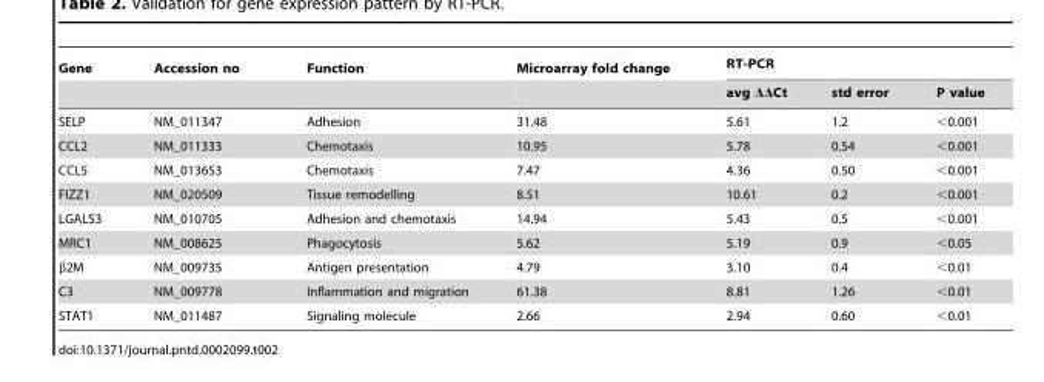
<table><thead><tr><td rowspan="2">Gene</td><td rowspan="2">Accession no</td><td rowspan="2">Function</td><td rowspan="2">Microarray fold change</td><td colspan="3">RT-PCR</td></tr><tr><td>avg ΔΔCt</td><td>std error</td><td>P value</td></tr></thead><tbody><tr><td>SELP</td><td>NM_011347</td><td>Adhesion</td><td>31.48</td><td>5.61</td><td>1.2</td><td>&lt;0.001</td></tr><tr><td>CCL2</td><td>NM_011333</td><td>Chemotaxis</td><td>10.95</td><td>5.78</td><td>0.54</td><td>&lt;0.001</td></tr><tr><td>CCL5</td><td>NM_013653</td><td>Chemotaxis</td><td>7.47</td><td>4.36</td><td>0.50</td><td>&lt;0.001</td></tr><tr><td>FIZZ1</td><td>NM_020509</td><td>Tissue remodelling</td><td>8.51</td><td>10.61</td><td>0.2</td><td>&lt;0.001</td></tr><tr><td>LGALS3</td><td>NM_010705</td><td>Adhesion and chemotaxis</td><td>14.94</td><td>5.43</td><td>0.5</td><td>&lt;0.001</td></tr><tr><td>MRC1</td><td>NM_008625</td><td>Phagocytosis</td><td>5.62</td><td>5.19</td><td>0.9</td><td>&lt;0.05</td></tr><tr><td>β2M</td><td>NM_009735</td><td>Antigen presentation</td><td>4.79</td><td>3.10</td><td>0.4</td><td>&lt;0.01</td></tr><tr><td>C3</td><td>NM_009778</td><td>Inflammation and migration</td><td>61.38</td><td>8.81</td><td>1.26</td><td>&lt;0.01</td></tr><tr><td>STAT1</td><td>NM_011487</td><td>Signaling molecule</td><td>2.66</td><td>2.94</td><td>0.60</td><td>&lt;0.01</td></tr></tbody></table>